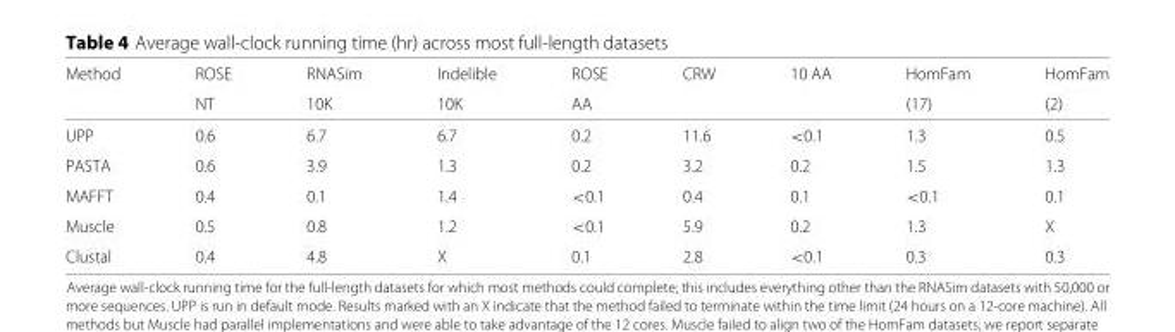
<table><thead><tr><td rowspan="2">Method</td><td rowspan="2">ROSE NT</td><td rowspan="2">RNASim 10K</td><td rowspan="2">Indelible 10K</td><td rowspan="2">ROSE AA</td><td rowspan="2">CRW</td><td rowspan="2">10 AA</td><td rowspan="2">HomFam (17)</td><td rowspan="2">HomFam (2)</td></tr><tr></tr></thead><tbody><tr><td>UPP</td><td>0.6</td><td>6.7</td><td>6.7</td><td>0.2</td><td>11.6</td><td>&lt;0.1</td><td>1.3</td><td>0.5</td></tr><tr><td>PASTA</td><td>0.6</td><td>3.9</td><td>1.3</td><td>0.2</td><td>3.2</td><td>0.2</td><td>1.5</td><td>1.3</td></tr><tr><td>MAFFT</td><td>0.4</td><td>0.1</td><td>1.4</td><td>&lt;0.1</td><td>0.4</td><td>0.1</td><td>&lt;0.1</td><td>0.1</td></tr><tr><td>Muscle</td><td>0.5</td><td>0.8</td><td>1.2</td><td>&lt;0.1</td><td>5.9</td><td>0.2</td><td>1.3</td><td>X</td></tr><tr><td>Clustal</td><td>0.4</td><td>4.8</td><td>X</td><td>0.1</td><td>2.8</td><td>&lt;0.1</td><td>0.3</td><td>0.3</td></tr></tbody></table>